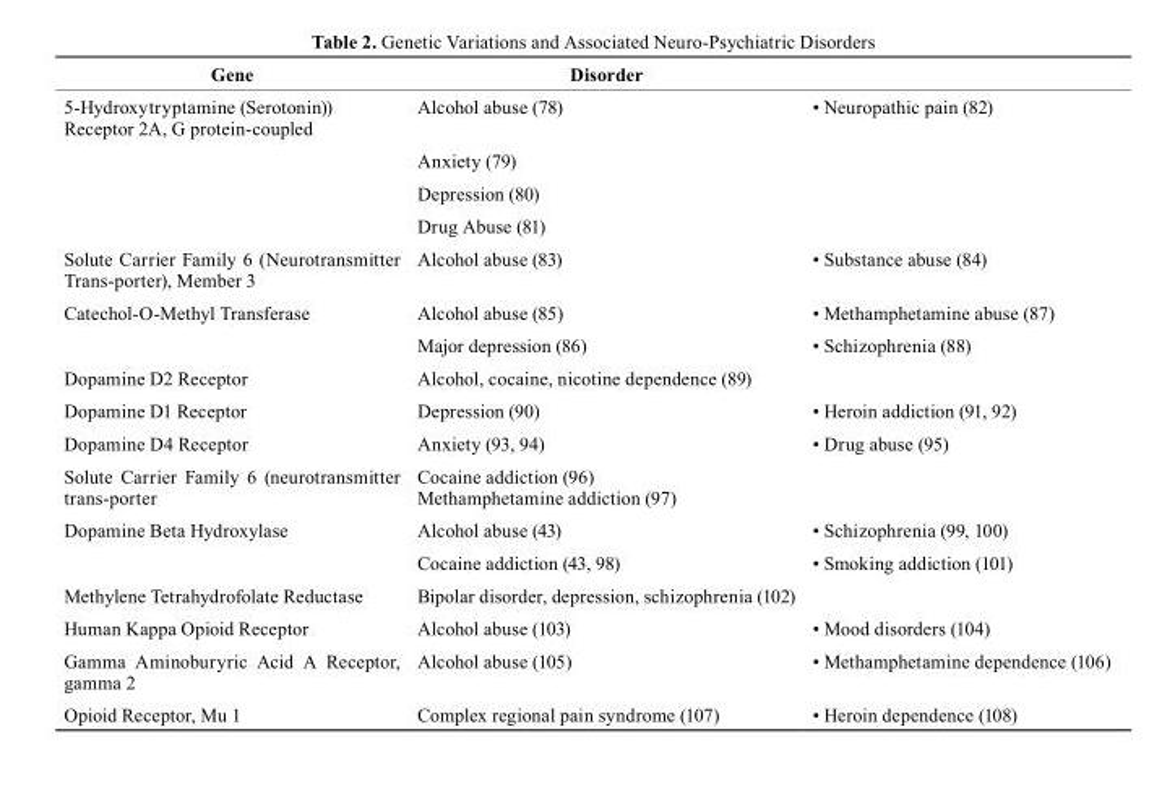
<table><thead><tr><td rowspan="2">Gene 5-Hydroxytryptamine (Serotonin)) Receptor 2A, G protein-coupled</td><td colspan="2">Disorder</td></tr><tr><td>Alcohol abuse (78)</td><td>• Neuropathic pain (82)</td></tr></thead><tbody><tr><td></td><td>Anxiety (79)</td><td></td></tr><tr><td></td><td>Depression (80)</td><td></td></tr><tr><td></td><td>Drug Abuse (81)</td><td></td></tr><tr><td>Solute Carrier Family 6 (Neurotransmitter Trans-porter), Member 3</td><td>Alcohol abuse (83)</td><td>• Substance abuse (84)</td></tr><tr><td rowspan="2">Catechol-O-Methyl Transferase</td><td>Alcohol abuse (85)</td><td>• Methamphetamine abuse (87)</td></tr><tr><td>Major depression (86)</td><td>• Schizophrenia (88)</td></tr><tr><td>Dopamine D2 Receptor</td><td>Alcohol, cocaine, nicotine dependence (89)</td><td></td></tr><tr><td>Dopamine D1 Receptor</td><td>Depression (90)</td><td>• Heroin addiction (91, 92)</td></tr><tr><td>Dopamine D4 Receptor</td><td>Anxiety (93, 94)</td><td>• Drug abuse (95)</td></tr><tr><td>Solute Carrier Family 6 (neurotransmitter trans-porter</td><td>Cocaine addiction (96) Methamphetamine addiction (97)</td><td></td></tr><tr><td rowspan="2">Dopamine Beta Hydroxylase</td><td>Alcohol abuse (43)</td><td>• Schizophrenia (99, 100)</td></tr><tr><td>Cocaine addiction (43, 98)</td><td>• Smoking addiction (101)</td></tr><tr><td>Methylene Tetrahydrofolate Reductase</td><td>Bipolar disorder, depression, schizophrenia (102)</td><td></td></tr><tr><td>Human Kappa Opioid Receptor</td><td>Alcohol abuse (103)</td><td>• Mood disorders (104)</td></tr><tr><td>Gamma Aminoburyric Acid A Receptor, gamma 2</td><td>Alcohol abuse (105)</td><td>• Methamphetamine dependence (106)</td></tr><tr><td>Opioid Receptor, Mu 1</td><td>Complex regional pain syndrome (107)</td><td>• Heroin dependence (108)</td></tr></tbody></table>